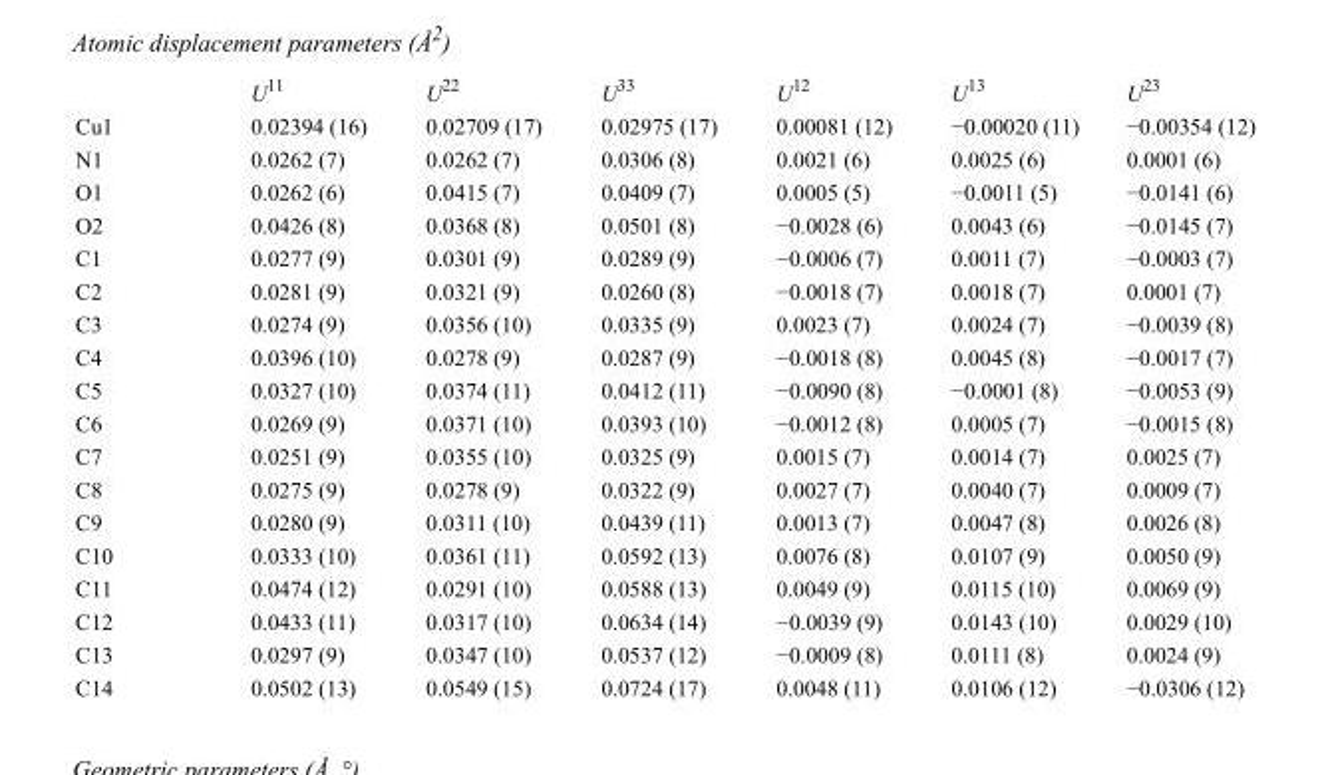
<table><thead><tr><td></td><td>U<sup>11</sup></td><td>U<sup>22</sup></td><td>U<sup>33</sup></td><td>U<sup>12</sup></td><td>U<sup>13</sup></td><td>U<sup>23</sup></td></tr></thead><tbody><tr><td>Cu1</td><td>0.02394 (16)</td><td>0.02709 (17)</td><td>0.02975 (17)</td><td>0.00081 (12)</td><td>−0.00020 (11)</td><td>−0.00354 (12)</td></tr><tr><td>N1</td><td>0.0262 (7)</td><td>0.0262 (7)</td><td>0.0306 (8)</td><td>0.0021 (6)</td><td>0.0025 (6)</td><td>0.0001 (6)</td></tr><tr><td>O1</td><td>0.0262 (6)</td><td>0.0415 (7)</td><td>0.0409 (7)</td><td>0.0005 (5)</td><td>−0.0011 (5)</td><td>−0.0141 (6)</td></tr><tr><td>O2</td><td>0.0426 (8)</td><td>0.0368 (8)</td><td>0.0501 (8)</td><td>−0.0028 (6)</td><td>0.0043 (6)</td><td>−0.0145 (7)</td></tr><tr><td>C1</td><td>0.0277 (9)</td><td>0.0301 (9)</td><td>0.0289 (9)</td><td>−0.0006 (7)</td><td>0.0011 (7)</td><td>−0.0003 (7)</td></tr><tr><td>C2</td><td>0.0281 (9)</td><td>0.0321 (9)</td><td>0.0260 (8)</td><td>−0.0018 (7)</td><td>0.0018 (7)</td><td>0.0001 (7)</td></tr><tr><td>C3</td><td>0.0274 (9)</td><td>0.0356 (10)</td><td>0.0335 (9)</td><td>0.0023 (7)</td><td>0.0024 (7)</td><td>−0.0039 (8)</td></tr><tr><td>C4</td><td>0.0396 (10)</td><td>0.0278 (9)</td><td>0.0287 (9)</td><td>−0.0018 (8)</td><td>0.0045 (8)</td><td>−0.0017 (7)</td></tr><tr><td>C5</td><td>0.0327 (10)</td><td>0.0374 (11)</td><td>0.0412 (11)</td><td>−0.0090 (8)</td><td>−0.0001 (8)</td><td>−0.0053 (9)</td></tr><tr><td>C6</td><td>0.0269 (9)</td><td>0.0371 (10)</td><td>0.0393 (10)</td><td>−0.0012 (8)</td><td>0.0005 (7)</td><td>−0.0015 (8)</td></tr><tr><td>C7</td><td>0.0251 (9)</td><td>0.0355 (10)</td><td>0.0325 (9)</td><td>0.0015 (7)</td><td>0.0014 (7)</td><td>0.0025 (7)</td></tr><tr><td>C8</td><td>0.0275 (9)</td><td>0.0278 (9)</td><td>0.0322 (9)</td><td>0.0027 (7)</td><td>0.0040 (7)</td><td>0.0009 (7)</td></tr><tr><td>C9</td><td>0.0280 (9)</td><td>0.0311 (10)</td><td>0.0439 (11)</td><td>0.0013 (7)</td><td>0.0047 (8)</td><td>0.0026 (8)</td></tr><tr><td>C10</td><td>0.0333 (10)</td><td>0.0361 (11)</td><td>0.0592 (13)</td><td>0.0076 (8)</td><td>0.0107 (9)</td><td>0.0050 (9)</td></tr><tr><td>C11</td><td>0.0474 (12)</td><td>0.0291 (10)</td><td>0.0588 (13)</td><td>0.0049 (9)</td><td>0.0115 (10)</td><td>0.0069 (9)</td></tr><tr><td>C12</td><td>0.0433 (11)</td><td>0.0317 (10)</td><td>0.0634 (14)</td><td>−0.0039 (9)</td><td>0.0143 (10)</td><td>0.0029 (10)</td></tr><tr><td>C13</td><td>0.0297 (9)</td><td>0.0347 (10)</td><td>0.0537 (12)</td><td>−0.0009 (8)</td><td>0.0111 (8)</td><td>0.0024 (9)</td></tr><tr><td>C14</td><td>0.0502 (13)</td><td>0.0549 (15)</td><td>0.0724 (17)</td><td>0.0048 (11)</td><td>0.0106 (12)</td><td>−0.0306 (12)</td></tr></tbody></table>